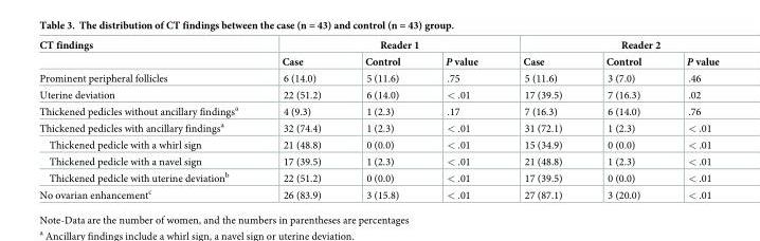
<table><thead><tr><td rowspan="2">CT findings</td><td colspan="3">Reader 1</td><td colspan="3">Reader 2</td></tr><tr><td>Case</td><td>Control</td><td>P value</td><td>Case</td><td>Control</td><td>P value</td></tr></thead><tbody><tr><td>Prominent peripheral follicles</td><td>6 (14.0)</td><td>5 (11.6)</td><td>.75</td><td>5 (11.6)</td><td>3 (7.0)</td><td>.46</td></tr><tr><td>Uterine deviation</td><td>22 (51.2)</td><td>6 (14.0)</td><td>&lt; .01</td><td>17 (39.5)</td><td>7 (16.3)</td><td>.02</td></tr><tr><td>Thickened pedicles without ancillary findings<sup>a</sup></td><td>4 (9.3)</td><td>1 (2.3)</td><td>.17</td><td>7 (16.3)</td><td>6 (14.0)</td><td>.76</td></tr><tr><td>Thickened pedicles with ancillary findings<sup>a</sup></td><td>32 (74.4)</td><td>1 (2.3)</td><td>&lt; .01</td><td>31 (72.1)</td><td>1 (2.3)</td><td>&lt; .01</td></tr><tr><td>Thickened pedicle with a whirl sign</td><td>21 (48.8)</td><td>0 (0.0)</td><td>&lt; .01</td><td>15 (34.9)</td><td>0 (0.0)</td><td>&lt; .01</td></tr><tr><td>Thickened pedicle with a navel sign</td><td>17 (39.5)</td><td>1 (2.3)</td><td>&lt; .01</td><td>21 (48.8)</td><td>1 (2.3)</td><td>&lt; .01</td></tr><tr><td>Thickened pedicle with uterine deviation<sup>b</sup></td><td>22 (51.2)</td><td>0 (0.0)</td><td>&lt; .01</td><td>17 (39.5)</td><td>0 (0.0)</td><td>&lt; .01</td></tr><tr><td>No ovarian enhancement<sup>c</sup></td><td>26 (83.9)</td><td>3 (15.8)</td><td>&lt; .01</td><td>27 (87.1)</td><td>3 (20.0)</td><td>&lt; .01</td></tr></tbody></table>